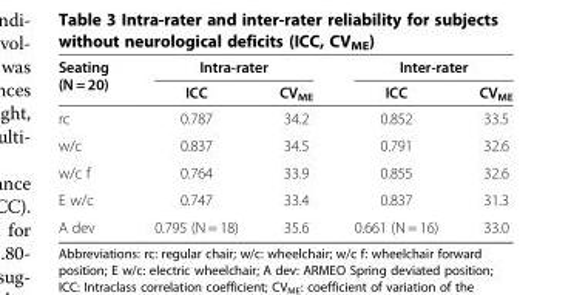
<table><thead><tr><td rowspan="2">Seating (N = 20)</td><td colspan="2">Intra-rater</td><td colspan="2">Inter-rater</td></tr><tr><td>ICC</td><td>CV<sub>ME</sub></td><td>ICC</td><td>CV<sub>ME</sub></td></tr></thead><tbody><tr><td>rc</td><td>0.787</td><td>34.2</td><td>0.852</td><td>33.5</td></tr><tr><td>w/c</td><td>0.837</td><td>34.5</td><td>0.791</td><td>32.6</td></tr><tr><td>w/c f</td><td>0.764</td><td>33.9</td><td>0.855</td><td>32.6</td></tr><tr><td>E w/c</td><td>0.747</td><td>33.4</td><td>0.837</td><td>31.3</td></tr><tr><td>A dev</td><td>0.795 (N = 18)</td><td>35.6</td><td>0.661 (N = 16)</td><td>33.0</td></tr></tbody></table>